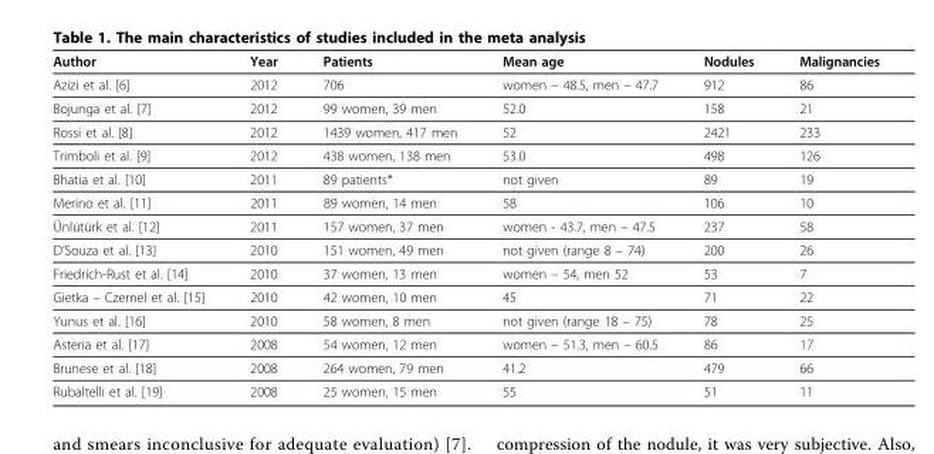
<table><thead><tr><td>Author</td><td>Year</td><td>Patients</td><td>Mean age</td><td>Nodules</td><td>Malignancies</td></tr></thead><tbody><tr><td>Azizi et al. [6]</td><td>2012</td><td>706</td><td>women – 48.5, men – 47.7</td><td>912</td><td>86</td></tr><tr><td>Bojunga et al. [7]</td><td>2012</td><td>99 women, 39 men</td><td>52.0</td><td>158</td><td>21</td></tr><tr><td>Rossi et al. [8]</td><td>2012</td><td>1439 women, 417 men</td><td>52</td><td>2421</td><td>233</td></tr><tr><td>Trimboli et al. [9]</td><td>2012</td><td>438 women, 138 men</td><td>53.0</td><td>498</td><td>126</td></tr><tr><td>Bhatia et al. [10]</td><td>2011</td><td>89 patients*</td><td>not given</td><td>89</td><td>19</td></tr><tr><td>Merino et al. [11]</td><td>2011</td><td>89 women, 14 men</td><td>58</td><td>106</td><td>10</td></tr><tr><td>Ünlütürk et al. [12]</td><td>2011</td><td>157 women, 37 men</td><td>women - 43.7, men – 47.5</td><td>237</td><td>58</td></tr><tr><td>D’Souza et al. [13]</td><td>2010</td><td>151 women, 49 men</td><td>not given (range 8 – 74)</td><td>200</td><td>26</td></tr><tr><td>Friedrich-Rust et al. [14]</td><td>2010</td><td>37 women, 13 men</td><td>women – 54, men 52</td><td>53</td><td>7</td></tr><tr><td>Gietka – Czernel et al. [15]</td><td>2010</td><td>42 women, 10 men</td><td>45</td><td>71</td><td>22</td></tr><tr><td>Yunus et al. [16]</td><td>2010</td><td>58 women, 8 men</td><td>not given (range 18 – 75)</td><td>78</td><td>25</td></tr><tr><td>Asteria et al. [17]</td><td>2008</td><td>54 women, 12 men</td><td>women – 51.3, men – 60.5</td><td>86</td><td>17</td></tr><tr><td>Brunese et al. [18]</td><td>2008</td><td>264 women, 79 men</td><td>41.2</td><td>479</td><td>66</td></tr><tr><td>Rubaltelli et al. [19]</td><td>2008</td><td>25 women, 15 men</td><td>55</td><td>51</td><td>11</td></tr></tbody></table>